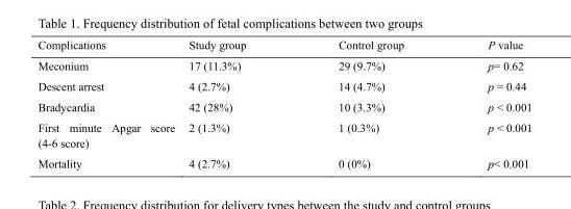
<table><thead><tr><td>Complications</td><td>Study group</td><td>Control group</td><td>P value</td></tr></thead><tbody><tr><td>Meconium</td><td>17 (11.3%)</td><td>29 (9.7%)</td><td>p= 0.62</td></tr><tr><td>Descent arrest</td><td>4 (2.7%)</td><td>14 (4.7%)</td><td>p = 0.44</td></tr><tr><td>Bradycardia</td><td>42 (28%)</td><td>10 (3.3%)</td><td>p &lt; 0.001</td></tr><tr><td>First minute Apgar score (4-6 score)</td><td>2 (1.3%)</td><td>1 (0.3%)</td><td>p &lt; 0.001</td></tr><tr><td>Mortality</td><td>4 (2.7%)</td><td>0 (0%)</td><td>p&lt; 0.001</td></tr></tbody></table>